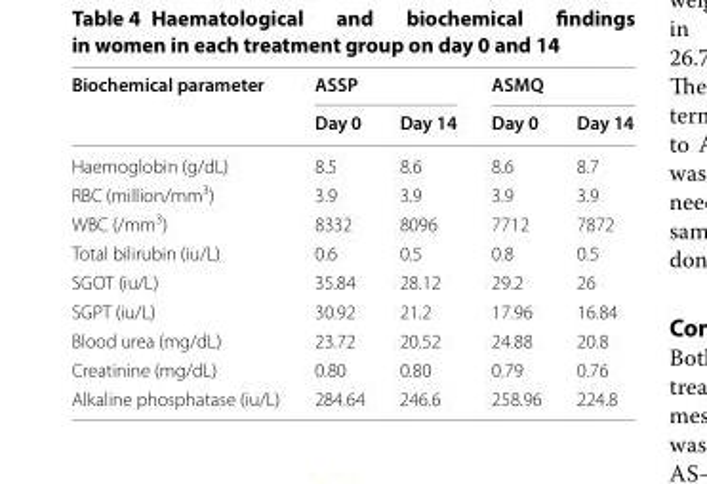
<table><thead><tr><td rowspan="2">Biochemical parameter</td><td colspan="2">ASSP</td><td colspan="2">ASMQ</td></tr><tr><td>Day 0</td><td>Day 14</td><td>Day 0</td><td>Day 14</td></tr></thead><tbody><tr><td>Haemoglobin (g/dL)</td><td>8.5</td><td>8.6</td><td>8.6</td><td>8.7</td></tr><tr><td>RBC (million/mm<sup>3</sup>)</td><td>3.9</td><td>3.9</td><td>3.9</td><td>3.9</td></tr><tr><td>WBC (/mm<sup>3</sup>)</td><td>8332</td><td>8096</td><td>7712</td><td>7872</td></tr><tr><td>Total bilirubin (iu/L)</td><td>0.6</td><td>0.5</td><td>0.8</td><td>0.5</td></tr><tr><td>SGOT (iu/L)</td><td>35.84</td><td>28.12</td><td>29.2</td><td>26</td></tr><tr><td>SGPT (iu/L)</td><td>30.92</td><td>21.2</td><td>17.96</td><td>16.84</td></tr><tr><td>Blood urea (mg/dL)</td><td>23.72</td><td>20.52</td><td>24.88</td><td>20.8</td></tr><tr><td>Creatinine (mg/dL)</td><td>0.80</td><td>0.80</td><td>0.79</td><td>0.76</td></tr><tr><td>Alkaline phosphatase (iu/L)</td><td>284.64</td><td>246.6</td><td>258.96</td><td>224.8</td></tr></tbody></table>